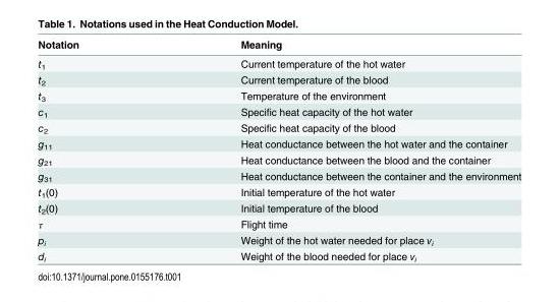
<table><thead><tr><td>Notation</td><td>Meaning</td></tr></thead><tbody><tr><td>t<sub>1</sub></td><td>Current temperature of the hot water</td></tr><tr><td>t<sub>2</sub></td><td>Current temperature of the blood</td></tr><tr><td>t<sub>3</sub></td><td>Temperature of the environment</td></tr><tr><td>c<sub>1</sub></td><td>Specific heat capacity of the hot water</td></tr><tr><td>c<sub>2</sub></td><td>Specific heat capacity of the blood</td></tr><tr><td>g<sub>11</sub></td><td>Heat conductance between the hot water and the container</td></tr><tr><td>g<sub>21</sub></td><td>Heat conductance between the blood and the container</td></tr><tr><td>g<sub>31</sub></td><td>Heat conductance between the container and the environment</td></tr><tr><td>t<sub>1</sub>(0)</td><td>Initial temperature of the hot water</td></tr><tr><td>t<sub>2</sub>(0)</td><td>Initial temperature of the blood</td></tr><tr><td>τ</td><td>Flight time</td></tr><tr><td>p<sub>i</sub></td><td>Weight of the hot water needed for place v<sub>i</sub></td></tr><tr><td>d<sub>i</sub></td><td>Weight of the blood needed for place v<sub>i</sub></td></tr></tbody></table>